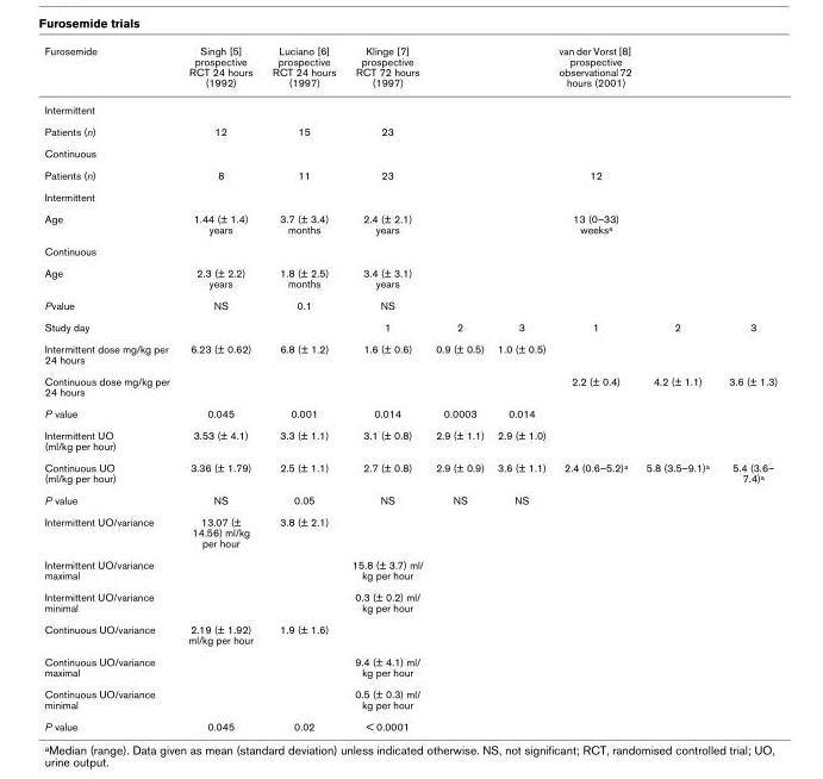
<table><thead><tr><td>Furosemide</td><td>Singh [5] prospective RCT 24 hours (1992)</td><td>Luciano [6] prospective RCT 24 hours (1997)</td><td>Klinge [7] prospective RCT 72 hours (1997)</td><td></td><td></td><td>van der Vorst [8] prospective observational 72 hours (2001)</td><td></td><td></td></tr></thead><tbody><tr><td colspan="9">Intermittent</td></tr><tr><td>Patients (n)</td><td>12</td><td>15</td><td>23</td><td></td><td></td><td></td><td></td><td></td></tr><tr><td colspan="9">Continuous</td></tr><tr><td>Patients (n)</td><td>8</td><td>11</td><td>23</td><td></td><td></td><td>12</td><td></td><td></td></tr><tr><td colspan="9">Intermittent</td></tr><tr><td>Age</td><td>1.44 (± 1.4) years</td><td>3.7 (± 3.4) months</td><td>2.4 (± 2.1) years</td><td></td><td></td><td>13 (0–33) weeksa</td><td></td><td></td></tr><tr><td colspan="9">Continuous</td></tr><tr><td>Age</td><td>2.3 (± 2.2) years</td><td>1.8 (± 2.5) months</td><td>3.4 (± 3.1) years</td><td></td><td></td><td></td><td></td><td></td></tr><tr><td>Pvalue</td><td>NS</td><td>0.1</td><td>NS</td><td></td><td></td><td></td><td></td><td></td></tr><tr><td>Study day</td><td></td><td></td><td>1</td><td>2</td><td>3</td><td>1</td><td>2</td><td>3</td></tr><tr><td>Intermittent dose mg/kg per 24 hours</td><td>6.23 (± 0.62)</td><td>6.8 (± 1.2)</td><td>1.6 (± 0.6)</td><td>0.9 (± 0.5)</td><td>1.0 (± 0.5)</td><td></td><td></td><td></td></tr><tr><td>Continuous dose mg/kg per 24 hours</td><td></td><td></td><td></td><td></td><td></td><td>2.2 (± 0.4)</td><td>4.2 (± 1.1)</td><td>3.6 (± 1.3)</td></tr><tr><td>P value</td><td>0.045</td><td>0.001</td><td>0.014</td><td>0.0003</td><td>0.014</td><td></td><td></td><td></td></tr><tr><td>Intermittent UO (ml/kg per hour)</td><td>3.53 (± 4.1)</td><td>3.3 (± 1.1)</td><td>3.1 (± 0.8)</td><td>2.9 (± 1.1)</td><td>2.9 (± 1.0)</td><td></td><td></td><td></td></tr><tr><td>Continuous UO (ml/kg per hour)</td><td>3.36 (± 1.79)</td><td>2.5 (± 1.1)</td><td>2.7 (± 0.8)</td><td>2.9 (± 0.9)</td><td>3.6 (± 1.1)</td><td>2.4 (0.6–5.2)a</td><td>5.8 (3.5–9.1)a</td><td>5.4 (3.6– 7.4)a</td></tr><tr><td>P value</td><td>NS</td><td>0.05</td><td>NS</td><td>NS</td><td>NS</td><td></td><td></td><td></td></tr><tr><td>Intermittent UO/variance</td><td>13.07 (± 14.56) ml/kg per hour</td><td>3.8 (± 2.1)</td><td></td><td></td><td></td><td></td><td></td><td></td></tr><tr><td>Intermittent UO/variance maximal</td><td></td><td></td><td>15.8 (± 3.7) ml/ kg per hour</td><td></td><td></td><td></td><td></td><td></td></tr><tr><td>Intermittent UO/variance minimal</td><td></td><td></td><td>0.3 (± 0.2) ml/ kg per hour</td><td></td><td></td><td></td><td></td><td></td></tr><tr><td>Continuous UO/variance</td><td>2.19 (± 1.92) ml/kg per hour</td><td>1.9 (± 1.6)</td><td></td><td></td><td></td><td></td><td></td><td></td></tr><tr><td>Continuous UO/variance maximal</td><td></td><td></td><td>9.4 (± 4.1) ml/ kg per hour</td><td></td><td></td><td></td><td></td><td></td></tr><tr><td>Continuous UO/variance minimal</td><td></td><td></td><td>0.5 (± 0.3) ml/ kg per hour</td><td></td><td></td><td></td><td></td><td></td></tr><tr><td>P value</td><td>0.045</td><td>0.02</td><td>&lt; 0.0001</td><td></td><td></td><td></td><td></td><td></td></tr></tbody></table>